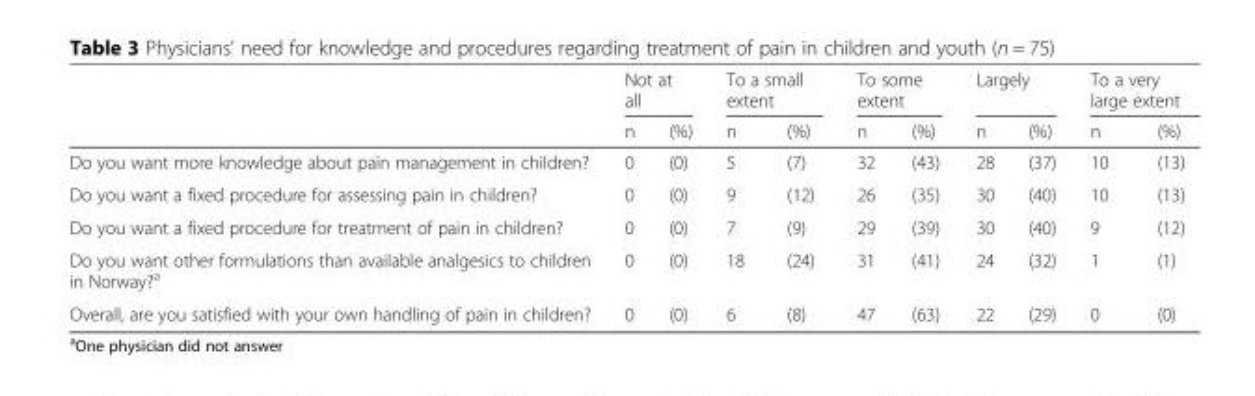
<table><thead><tr><td rowspan="2"></td><td colspan="2">Not at all</td><td colspan="2">To a small extent</td><td colspan="2">To some extent</td><td colspan="2">Largely</td><td colspan="2">To a very large extent</td></tr><tr><td>n</td><td>(%)</td><td>n</td><td>(%)</td><td>n</td><td>(%)</td><td>n</td><td>(%)</td><td>n</td><td>(%)</td></tr></thead><tbody><tr><td>Do you want more knowledge about pain management in children?</td><td>0</td><td>(0)</td><td>5</td><td>(7)</td><td>32</td><td>(43)</td><td>28</td><td>(37)</td><td>10</td><td>(13)</td></tr><tr><td>Do you want a fixed procedure for assessing pain in children?</td><td>0</td><td>(0)</td><td>9</td><td>(12)</td><td>26</td><td>(35)</td><td>30</td><td>(40)</td><td>10</td><td>(13)</td></tr><tr><td>Do you want a fixed procedure for treatment of pain in children?</td><td>0</td><td>(0)</td><td>7</td><td>(9)</td><td>29</td><td>(39)</td><td>30</td><td>(40)</td><td>9</td><td>(12)</td></tr><tr><td>Do you want other formulations than available analgesics to children in Norway?<sup>a</sup></td><td>0</td><td>(0)</td><td>18</td><td>(24)</td><td>31</td><td>(41)</td><td>24</td><td>(32)</td><td>1</td><td>(1)</td></tr><tr><td>Overall, are you satisfied with your own handling of pain in children?</td><td>0</td><td>(0)</td><td>6</td><td>(8)</td><td>47</td><td>(63)</td><td>22</td><td>(29)</td><td>0</td><td>(0)</td></tr></tbody></table>